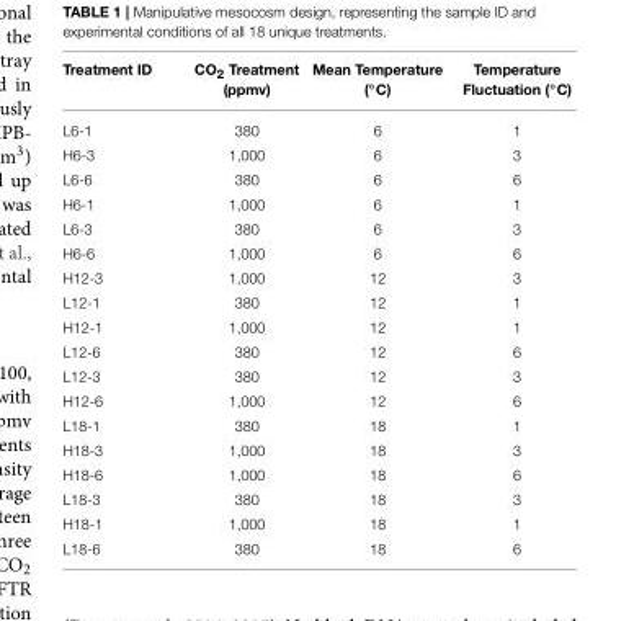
<table><thead><tr><td>Treatment ID</td><td>CO<sub>2</sub> Treatment (ppmv)</td><td>Mean Temperature (◦C)</td><td>Temperature Fluctuation (◦C)</td></tr></thead><tbody><tr><td>L6-1</td><td>380</td><td>6</td><td>1</td></tr><tr><td>H6-3</td><td>1,000</td><td>6</td><td>3</td></tr><tr><td>L6-6</td><td>380</td><td>6</td><td>6</td></tr><tr><td>H6-1</td><td>1,000</td><td>6</td><td>1</td></tr><tr><td>L6-3</td><td>380</td><td>6</td><td>3</td></tr><tr><td>H6-6</td><td>1,000</td><td>6</td><td>6</td></tr><tr><td>H12-3</td><td>1,000</td><td>12</td><td>3</td></tr><tr><td>L12-1</td><td>380</td><td>12</td><td>1</td></tr><tr><td>H12-1</td><td>1,000</td><td>12</td><td>1</td></tr><tr><td>L12-6</td><td>380</td><td>12</td><td>6</td></tr><tr><td>L12-3</td><td>380</td><td>12</td><td>3</td></tr><tr><td>H12-6</td><td>1,000</td><td>12</td><td>6</td></tr><tr><td>L18-1</td><td>380</td><td>18</td><td>1</td></tr><tr><td>H18-3</td><td>1,000</td><td>18</td><td>3</td></tr><tr><td>H18-6</td><td>1,000</td><td>18</td><td>6</td></tr><tr><td>L18-3</td><td>380</td><td>18</td><td>3</td></tr><tr><td>H18-1</td><td>1,000</td><td>18</td><td>1</td></tr><tr><td>L18-6</td><td>380</td><td>18</td><td>6</td></tr></tbody></table>